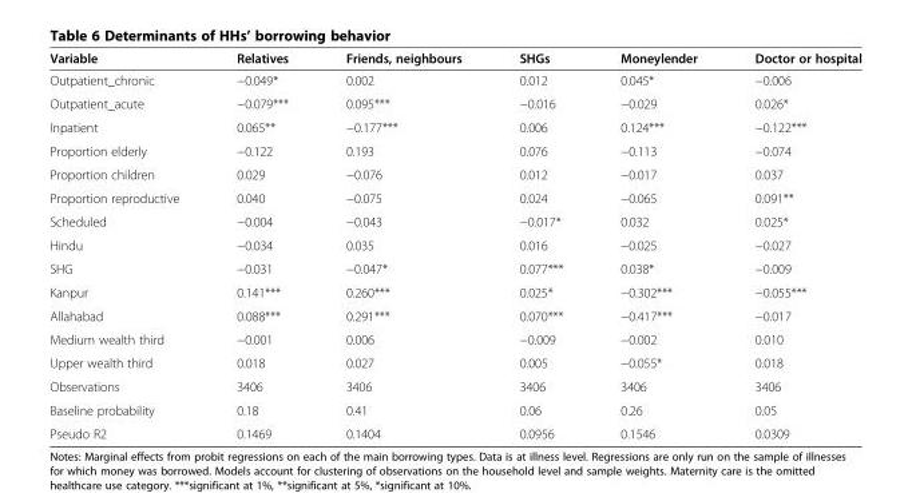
<table><thead><tr><td>Variable</td><td>Relatives</td><td>Friends, neighbours</td><td>SHGs</td><td>Moneylender</td><td>Doctor or hospital</td></tr></thead><tbody><tr><td>Outpatient_chronic</td><td>−0.049*</td><td>0.002</td><td>0.012</td><td>0.045*</td><td>−0.006</td></tr><tr><td>Outpatient_acute</td><td>−0.079***</td><td>0.095***</td><td>−0.016</td><td>−0.029</td><td>0.026*</td></tr><tr><td>Inpatient</td><td>0.065**</td><td>−0.177***</td><td>0.006</td><td>0.124***</td><td>−0.122***</td></tr><tr><td>Proportion elderly</td><td>−0.122</td><td>0.193</td><td>0.076</td><td>−0.113</td><td>−0.074</td></tr><tr><td>Proportion children</td><td>0.029</td><td>−0.076</td><td>0.012</td><td>−0.017</td><td>0.037</td></tr><tr><td>Proportion reproductive</td><td>0.040</td><td>−0.075</td><td>0.024</td><td>−0.065</td><td>0.091**</td></tr><tr><td>Scheduled</td><td>−0.004</td><td>−0.043</td><td>−0.017*</td><td>0.032</td><td>0.025*</td></tr><tr><td>Hindu</td><td>−0.034</td><td>0.035</td><td>0.016</td><td>−0.025</td><td>−0.027</td></tr><tr><td>SHG</td><td>−0.031</td><td>−0.047*</td><td>0.077***</td><td>0.038*</td><td>−0.009</td></tr><tr><td>Kanpur</td><td>0.141***</td><td>0.260***</td><td>0.025*</td><td>−0.302***</td><td>−0.055***</td></tr><tr><td>Allahabad</td><td>0.088***</td><td>0.291***</td><td>0.070***</td><td>−0.417***</td><td>−0.017</td></tr><tr><td>Medium wealth third</td><td>−0.001</td><td>0.006</td><td>−0.009</td><td>−0.002</td><td>0.010</td></tr><tr><td>Upper wealth third</td><td>0.018</td><td>0.027</td><td>0.005</td><td>−0.055*</td><td>0.018</td></tr><tr><td>Observations</td><td>3406</td><td>3406</td><td>3406</td><td>3406</td><td>3406</td></tr><tr><td>Baseline probability</td><td>0.18</td><td>0.41</td><td>0.06</td><td>0.26</td><td>0.05</td></tr><tr><td>Pseudo R2</td><td>0.1469</td><td>0.1404</td><td>0.0956</td><td>0.1546</td><td>0.0309</td></tr></tbody></table>